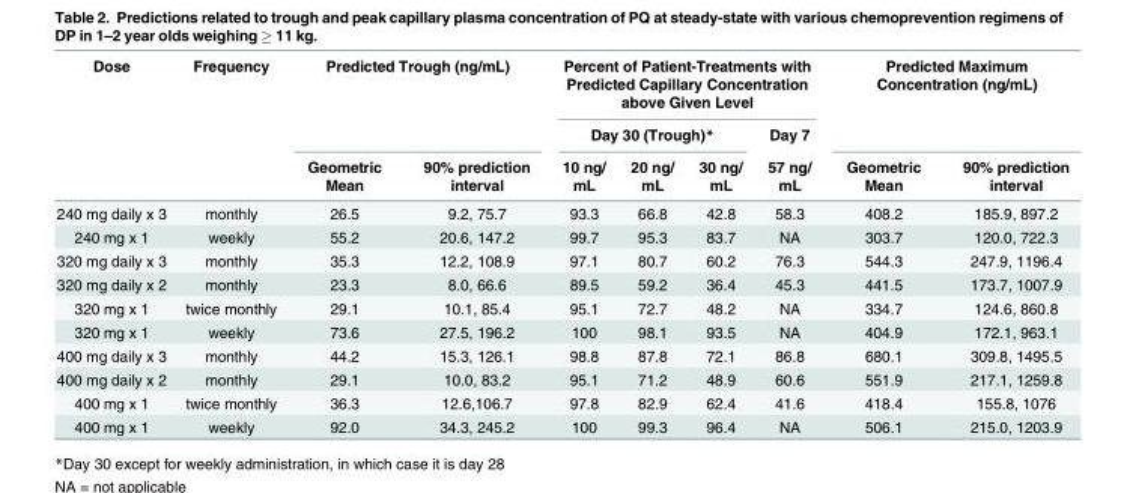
<table><thead><tr><td rowspan="3">Dose</td><td rowspan="3">Frequency</td><td rowspan="2" colspan="2">Predicted Trough (ng/mL)</td><td colspan="4">Percent of Patient-Treatments with Predicted Capillary Concentration above Given Level</td><td rowspan="2" colspan="2">Predicted Maximum Concentration (ng/mL)</td></tr><tr><td colspan="3">Day 30 (Trough)*</td><td rowspan="2">Day 7 57 ng/ mL</td></tr><tr><td>Geometric Mean</td><td>90% prediction interval</td><td>10 ng/ mL</td><td>20 ng/ mL</td><td>30 ng/ mL</td><td>Geometric Mean</td><td>90% prediction interval</td></tr></thead><tbody><tr><td>240 mg daily x 3</td><td>monthly</td><td>26.5</td><td>9.2, 75.7</td><td>93.3</td><td>66.8</td><td>42.8</td><td>58.3</td><td>408.2</td><td>185.9, 897.2</td></tr><tr><td>240 mg x 1</td><td>weekly</td><td>55.2</td><td>20.6, 147.2</td><td>99.7</td><td>95.3</td><td>83.7</td><td>NA</td><td>303.7</td><td>120.0, 722.3</td></tr><tr><td>320 mg daily x 3</td><td>monthly</td><td>35.3</td><td>12.2, 108.9</td><td>97.1</td><td>80.7</td><td>60.2</td><td>76.3</td><td>544.3</td><td>247.9, 1196.4</td></tr><tr><td>320 mg daily x 2</td><td>monthly</td><td>23.3</td><td>8.0, 66.6</td><td>89.5</td><td>59.2</td><td>36.4</td><td>45.3</td><td>441.5</td><td>173.7, 1007.9</td></tr><tr><td>320 mg x 1</td><td>twice monthly</td><td>29.1</td><td>10.1, 85.4</td><td>95.1</td><td>72.7</td><td>48.2</td><td>NA</td><td>334.7</td><td>124.6, 860.8</td></tr><tr><td>320 mg x 1</td><td>weekly</td><td>73.6</td><td>27.5, 196.2</td><td>100</td><td>98.1</td><td>93.5</td><td>NA</td><td>404.9</td><td>172.1, 963.1</td></tr><tr><td>400 mg daily x 3</td><td>monthly</td><td>44.2</td><td>15.3, 126.1</td><td>98.8</td><td>87.8</td><td>72.1</td><td>86.8</td><td>680.1</td><td>309.8, 1495.5</td></tr><tr><td>400 mg daily x 2</td><td>monthly</td><td>29.1</td><td>10.0, 83.2</td><td>95.1</td><td>71.2</td><td>48.9</td><td>60.6</td><td>551.9</td><td>217.1, 1259.8</td></tr><tr><td>400 mg x 1</td><td>twice monthly</td><td>36.3</td><td>12.6,106.7</td><td>97.8</td><td>82.9</td><td>62.4</td><td>41.6</td><td>418.4</td><td>155.8, 1076</td></tr><tr><td>400 mg x 1</td><td>weekly</td><td>92.0</td><td>34.3, 245.2</td><td>100</td><td>99.3</td><td>96.4</td><td>NA</td><td>506.1</td><td>215.0, 1203.9</td></tr></tbody></table>